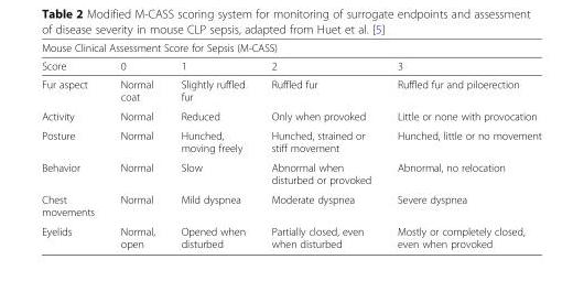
<table><thead><tr><td colspan="5">Mouse Clinical Assessment Score for Sepsis (M-CASS)</td></tr><tr><td>Score</td><td>0</td><td>1</td><td>2</td><td>3</td></tr></thead><tbody><tr><td>Fur aspect</td><td>Normal coat</td><td>Slightly ruffled fur</td><td>Ruffled fur</td><td>Ruffled fur and piloerection</td></tr><tr><td>Activity</td><td>Normal</td><td>Reduced</td><td>Only when provoked</td><td>Little or none with provocation</td></tr><tr><td>Posture</td><td>Normal</td><td>Hunched, moving freely</td><td>Hunched, strained or stiff movement</td><td>Hunched, little or no movement</td></tr><tr><td>Behavior</td><td>Normal</td><td>Slow</td><td>Abnormal when disturbed or provoked</td><td>Abnormal, no relocation</td></tr><tr><td>Chest movements</td><td>Normal</td><td>Mild dyspnea</td><td>Moderate dyspnea</td><td>Severe dyspnea</td></tr><tr><td>Eyelids</td><td>Normal, open</td><td>Opened when disturbed</td><td>Partially closed, even when disturbed</td><td>Mostly or completely closed, even when provoked</td></tr></tbody></table>